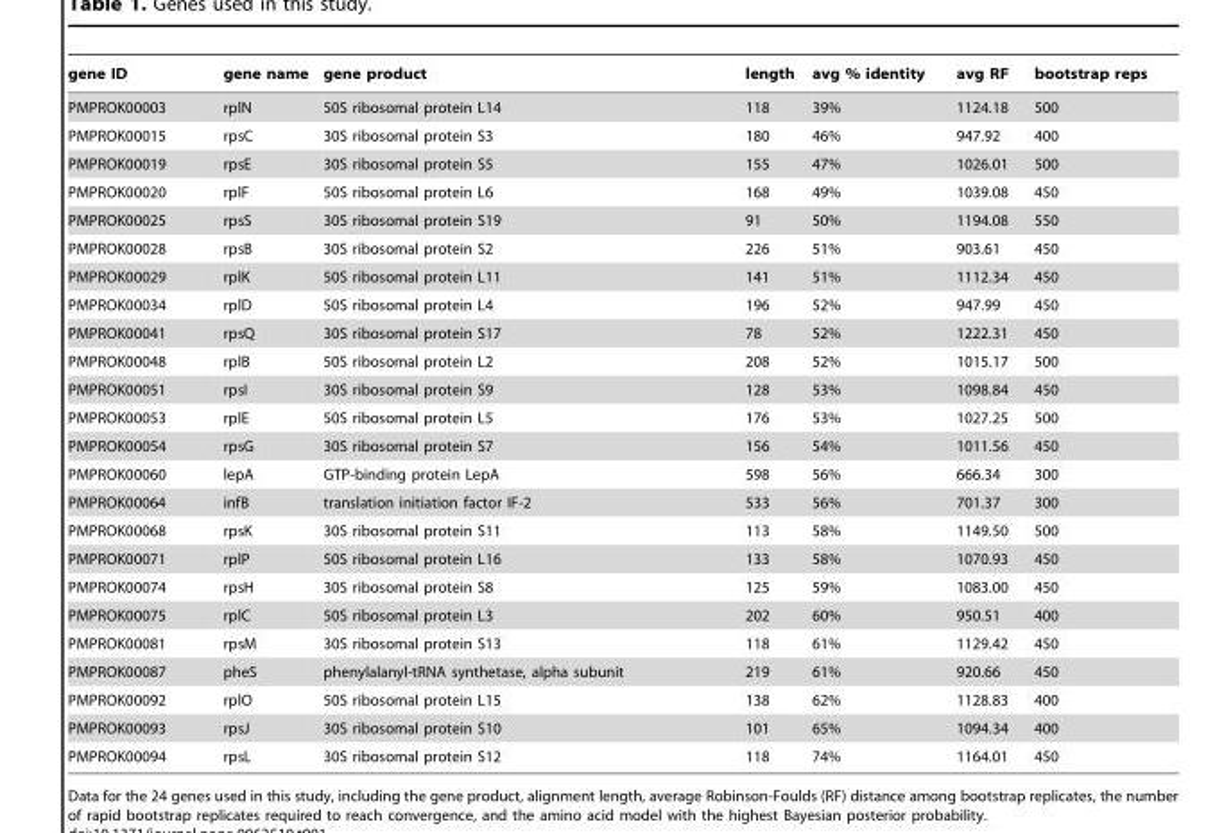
<table><thead><tr><td>gene ID</td><td>gene name</td><td>gene product</td><td>length</td><td>avg % identity</td><td>avg RF</td><td>bootstrap reps</td></tr></thead><tbody><tr><td>PMPROK00003</td><td>rplN</td><td>50S ribosomal protein L14</td><td>118</td><td>39%</td><td>1124.18</td><td>500</td></tr><tr><td>PMPROK00015</td><td>rpsC</td><td>30S ribosomal protein S3</td><td>180</td><td>46%</td><td>947.92</td><td>400</td></tr><tr><td>PMPROK00019</td><td>rpsE</td><td>30S ribosomal protein S5</td><td>155</td><td>47%</td><td>1026.01</td><td>500</td></tr><tr><td>PMPROK00020</td><td>rplF</td><td>50S ribosomal protein L6</td><td>168</td><td>49%</td><td>1039.08</td><td>450</td></tr><tr><td>PMPROK00025</td><td>rpsS</td><td>30S ribosomal protein S19</td><td>91</td><td>50%</td><td>1194.08</td><td>550</td></tr><tr><td>PMPROK00028</td><td>rpsB</td><td>30S ribosomal protein S2</td><td>226</td><td>51%</td><td>903.61</td><td>450</td></tr><tr><td>PMPROK00029</td><td>rplK</td><td>50S ribosomal protein L11</td><td>141</td><td>51%</td><td>1112.34</td><td>450</td></tr><tr><td>PMPROK00034</td><td>rplD</td><td>50S ribosomal protein L4</td><td>196</td><td>52%</td><td>947.99</td><td>450</td></tr><tr><td>PMPROK00041</td><td>rpsQ</td><td>30S ribosomal protein S17</td><td>78</td><td>52%</td><td>1222.31</td><td>450</td></tr><tr><td>PMPROK00048</td><td>rplB</td><td>50S ribosomal protein L2</td><td>208</td><td>52%</td><td>1015.17</td><td>500</td></tr><tr><td>PMPROK00051</td><td>rpsI</td><td>30S ribosomal protein S9</td><td>128</td><td>53%</td><td>1098.84</td><td>450</td></tr><tr><td>PMPROK00053</td><td>rplE</td><td>50S ribosomal protein L5</td><td>176</td><td>53%</td><td>1027.25</td><td>500</td></tr><tr><td>PMPROK00054</td><td>rpsG</td><td>30S ribosomal protein S7</td><td>156</td><td>54%</td><td>1011.56</td><td>450</td></tr><tr><td>PMPROK00060</td><td>lepA</td><td>GTP-binding protein LepA</td><td>598</td><td>56%</td><td>666.34</td><td>300</td></tr><tr><td>PMPROK00064</td><td>infB</td><td>translation initiation factor IF-2</td><td>533</td><td>56%</td><td>701.37</td><td>300</td></tr><tr><td>PMPROK00068</td><td>rpsK</td><td>30S ribosomal protein S11</td><td>113</td><td>58%</td><td>1149.50</td><td>500</td></tr><tr><td>PMPROK00071</td><td>rplP</td><td>50S ribosomal protein L16</td><td>133</td><td>58%</td><td>1070.93</td><td>450</td></tr><tr><td>PMPROK00074</td><td>rpsH</td><td>30S ribosomal protein S8</td><td>125</td><td>59%</td><td>1083.00</td><td>450</td></tr><tr><td>PMPROK00075</td><td>rplC</td><td>50S ribosomal protein L3</td><td>202</td><td>60%</td><td>950.51</td><td>400</td></tr><tr><td>PMPROK00081</td><td>rpsM</td><td>30S ribosomal protein S13</td><td>118</td><td>61%</td><td>1129.42</td><td>450</td></tr><tr><td>PMPROK00087</td><td>pheS</td><td>phenylalanyl-tRNA synthetase, alpha subunit</td><td>219</td><td>61%</td><td>920.66</td><td>450</td></tr><tr><td>PMPROK00092</td><td>rplO</td><td>50S ribosomal protein L15</td><td>138</td><td>62%</td><td>1128.83</td><td>400</td></tr><tr><td>PMPROK00093</td><td>rpsJ</td><td>30S ribosomal protein S10</td><td>101</td><td>65%</td><td>1094.34</td><td>400</td></tr><tr><td>PMPROK00094</td><td>rpsL</td><td>30S ribosomal protein S12</td><td>118</td><td>74%</td><td>1164.01</td><td>450</td></tr></tbody></table>